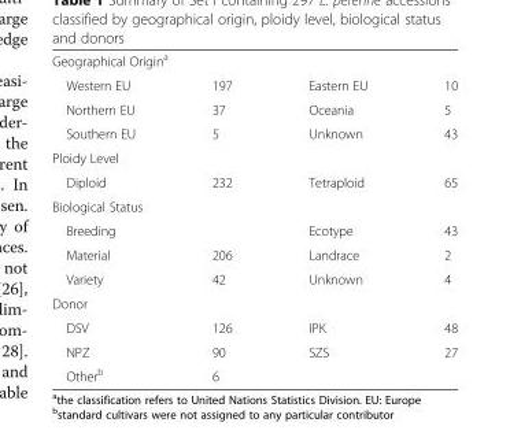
<table><tbody><tr><td colspan="4">Geographical Origin<sup>a</sup></td></tr><tr><td>Western EU</td><td>197</td><td>Eastern EU</td><td>10</td></tr><tr><td>Northern EU</td><td>37</td><td>Oceania</td><td>5</td></tr><tr><td>Southern EU</td><td>5</td><td>Unknown</td><td>43</td></tr><tr><td colspan="4">Ploidy Level</td></tr><tr><td>Diploid</td><td>232</td><td>Tetraploid</td><td>65</td></tr><tr><td colspan="4">Biological Status</td></tr><tr><td>Breeding</td><td></td><td>Ecotype</td><td>43</td></tr><tr><td>Material</td><td>206</td><td>Landrace</td><td>2</td></tr><tr><td>Variety</td><td>42</td><td>Unknown</td><td>4</td></tr><tr><td colspan="4">Donor</td></tr><tr><td>DSV</td><td>126</td><td>IPK</td><td>48</td></tr><tr><td>NPZ</td><td>90</td><td>SZS</td><td>27</td></tr><tr><td>Other<sup>b</sup></td><td>6</td><td></td><td></td></tr></tbody></table>